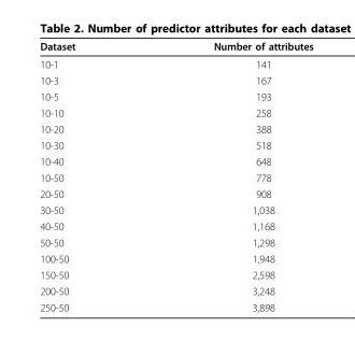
<table><thead><tr><td>Dataset</td><td>Number of attributes</td></tr></thead><tbody><tr><td>10-1</td><td>141</td></tr><tr><td>10-3</td><td>167</td></tr><tr><td>10-5</td><td>193</td></tr><tr><td>10-10</td><td>258</td></tr><tr><td>10-20</td><td>388</td></tr><tr><td>10-30</td><td>518</td></tr><tr><td>10-40</td><td>648</td></tr><tr><td>10-50</td><td>778</td></tr><tr><td>20-50</td><td>908</td></tr><tr><td>30-50</td><td>1,038</td></tr><tr><td>40-50</td><td>1,168</td></tr><tr><td>50-50</td><td>1,298</td></tr><tr><td>100-50</td><td>1,948</td></tr><tr><td>150-50</td><td>2,598</td></tr><tr><td>200-50</td><td>3,248</td></tr><tr><td>250-50</td><td>3,898</td></tr></tbody></table>